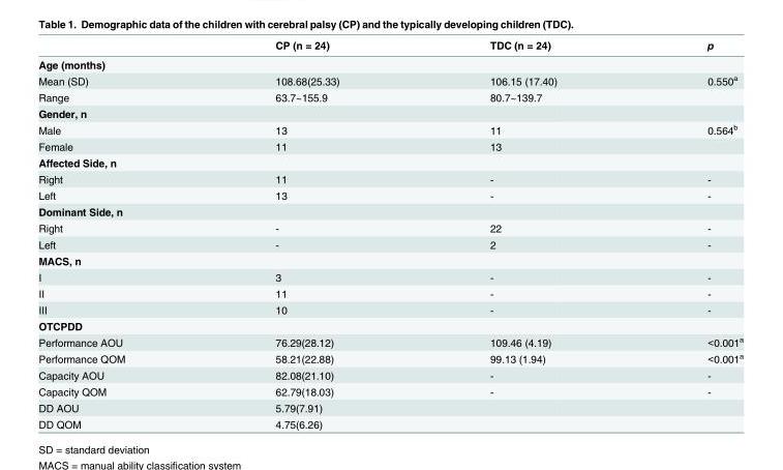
<table><thead><tr><td></td><td>CP (n = 24)</td><td>TDC (n = 24)</td><td>p</td></tr></thead><tbody><tr><td colspan="4">Age (months)</td></tr><tr><td>Mean (SD)</td><td>108.68(25.33)</td><td>106.15 (17.40)</td><td>0.550<sup>a</sup></td></tr><tr><td>Range</td><td>63.7~155.9</td><td>80.7~139.7</td><td></td></tr><tr><td colspan="4">Gender, n</td></tr><tr><td>Male</td><td>13</td><td>11</td><td>0.564<sup>b</sup></td></tr><tr><td>Female</td><td>11</td><td>13</td><td></td></tr><tr><td colspan="4">Affected Side, n</td></tr><tr><td>Right</td><td>11</td><td>-</td><td>-</td></tr><tr><td>Left</td><td>13</td><td>-</td><td>-</td></tr><tr><td colspan="4">Dominant Side, n</td></tr><tr><td>Right</td><td>-</td><td>22</td><td>-</td></tr><tr><td>Left</td><td>-</td><td>2</td><td>-</td></tr><tr><td colspan="4">MACS, n</td></tr><tr><td>I</td><td>3</td><td>-</td><td>-</td></tr><tr><td>II</td><td>11</td><td>-</td><td>-</td></tr><tr><td>III</td><td>10</td><td>-</td><td>-</td></tr><tr><td colspan="4">OTCPDD</td></tr><tr><td>Performance AOU</td><td>76.29(28.12)</td><td>109.46 (4.19)</td><td>&lt;0.001<sup>a</sup></td></tr><tr><td>Performance QOM</td><td>58.21(22.88)</td><td>99.13 (1.94)</td><td>&lt;0.001<sup>a</sup></td></tr><tr><td>Capacity AOU</td><td>82.08(21.10)</td><td>-</td><td>-</td></tr><tr><td>Capacity QOM</td><td>62.79(18.03)</td><td>-</td><td>-</td></tr><tr><td>DD AOU</td><td>5.79(7.91)</td><td></td><td></td></tr><tr><td>DD QOM</td><td>4.75(6.26)</td><td></td><td></td></tr></tbody></table>